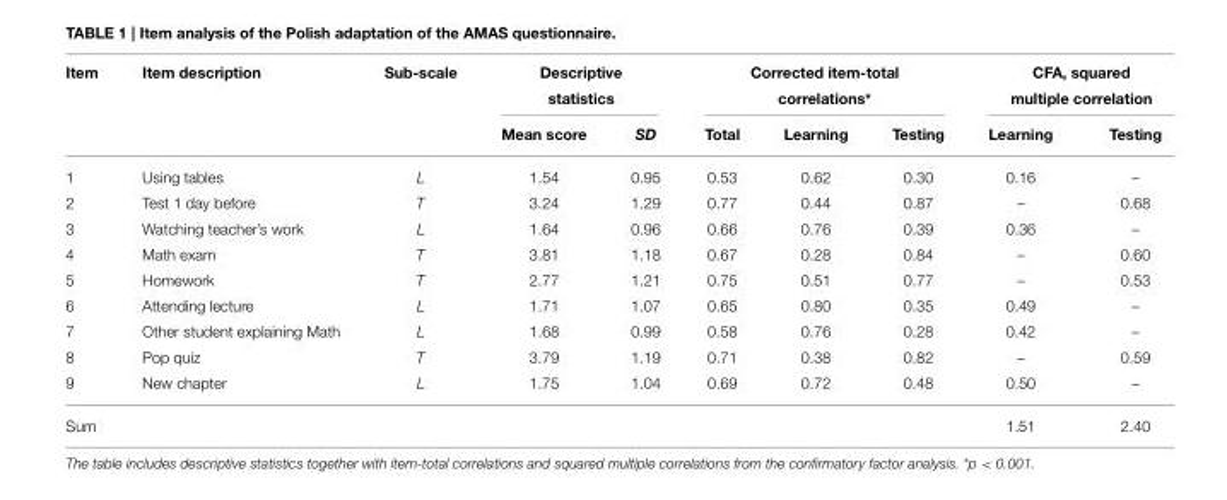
<table><thead><tr><td rowspan="2">Item</td><td rowspan="2">Item description</td><td rowspan="2">Sub-scale</td><td colspan="2">Descriptive statistics</td><td colspan="3">Corrected item-total correlations*</td><td colspan="2">CFA, squared multiple correlation</td></tr><tr><td>Mean score</td><td>SD</td><td>Total</td><td>Learning</td><td>Testing</td><td>Learning</td><td>Testing</td></tr></thead><tbody><tr><td>1</td><td>Using tables</td><td>L</td><td>1.54</td><td>0.95</td><td>0.53</td><td>0.62</td><td>0.30</td><td>0.16</td><td>–</td></tr><tr><td>2</td><td>Test 1 day before</td><td>T</td><td>3.24</td><td>1.29</td><td>0.77</td><td>0.44</td><td>0.87</td><td>–</td><td>0.68</td></tr><tr><td>3</td><td>Watching teacher’s work</td><td>L</td><td>1.64</td><td>0.96</td><td>0.66</td><td>0.76</td><td>0.39</td><td>0.36</td><td>–</td></tr><tr><td>4</td><td>Math exam</td><td>T</td><td>3.81</td><td>1.18</td><td>0.67</td><td>0.28</td><td>0.84</td><td>–</td><td>0.60</td></tr><tr><td>5</td><td>Homework</td><td>T</td><td>2.77</td><td>1.21</td><td>0.75</td><td>0.51</td><td>0.77</td><td>–</td><td>0.53</td></tr><tr><td>6</td><td>Attending lecture</td><td>L</td><td>1.71</td><td>1.07</td><td>0.65</td><td>0.80</td><td>0.35</td><td>0.49</td><td>–</td></tr><tr><td>7</td><td>Other student explaining Math</td><td>L</td><td>1.68</td><td>0.99</td><td>0.58</td><td>0.76</td><td>0.28</td><td>0.42</td><td>–</td></tr><tr><td>8</td><td>Pop quiz</td><td>T</td><td>3.79</td><td>1.19</td><td>0.71</td><td>0.38</td><td>0.82</td><td>–</td><td>0.59</td></tr><tr><td>9</td><td>New chapter</td><td>L</td><td>1.75</td><td>1.04</td><td>0.69</td><td>0.72</td><td>0.48</td><td>0.50</td><td>–</td></tr><tr><td colspan="2">Sum</td><td></td><td></td><td></td><td></td><td></td><td></td><td>1.51</td><td>2.40</td></tr></tbody></table>